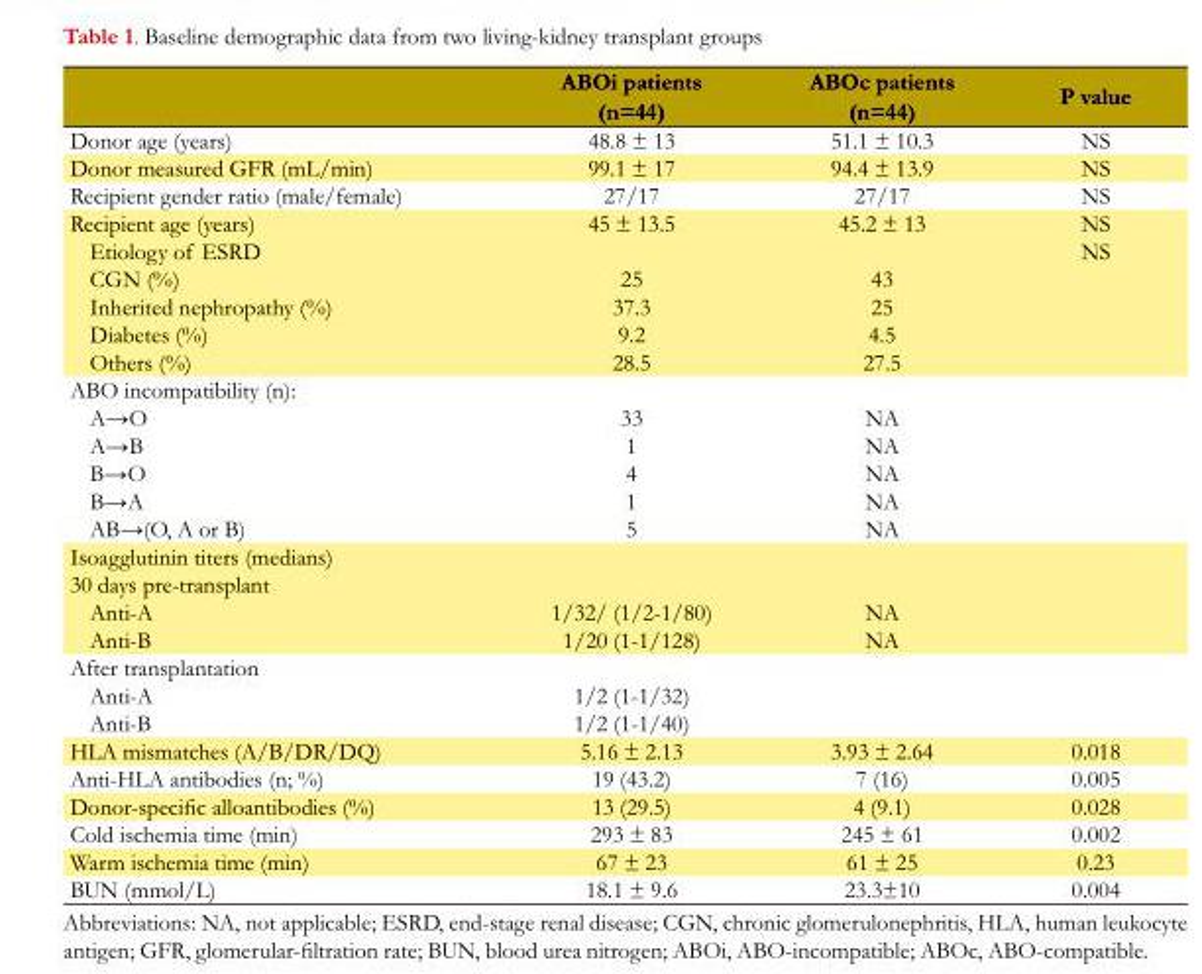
<table><thead><tr><td></td><td>ABOi patients (n=44)</td><td>ABOc patients (n=44)</td><td>P value</td></tr></thead><tbody><tr><td>Donor age (years)</td><td>48.8 ± 13</td><td>51.1 ± 10.3</td><td>NS</td></tr><tr><td>Donor measured GFR (mL/min)</td><td>99.1 ± 17</td><td>94.4 ± 13.9</td><td>NS</td></tr><tr><td>Recipient gender ratio (male/female)</td><td>27/17</td><td>27/17</td><td>NS</td></tr><tr><td>Recipient age (years)</td><td>45 ± 13.5</td><td>45.2 ± 13</td><td>NS</td></tr><tr><td>Etiology of ESRD</td><td></td><td></td><td>NS</td></tr><tr><td>CGN (%)</td><td>25</td><td>43</td><td></td></tr><tr><td>Inherited nephropathy (%)</td><td>37.3</td><td>25</td><td></td></tr><tr><td>Diabetes (%)</td><td>9.2</td><td>4.5</td><td></td></tr><tr><td>Others (%)</td><td>28.5</td><td>27.5</td><td></td></tr><tr><td colspan="4">ABO incompatibility (n):</td></tr><tr><td>A→O</td><td>33</td><td>NA</td><td></td></tr><tr><td>A→B</td><td>1</td><td>NA</td><td></td></tr><tr><td>B→O</td><td>4</td><td>NA</td><td></td></tr><tr><td>B→A</td><td>1</td><td>NA</td><td></td></tr><tr><td>AB→(O, A or B)</td><td>5</td><td>NA</td><td></td></tr><tr><td colspan="4">Isoagglutinin titers (medians)</td></tr><tr><td colspan="4">30 days pre-transplant</td></tr><tr><td>Anti-A</td><td>1/32/ (1/2-1/80)</td><td>NA</td><td></td></tr><tr><td>Anti-B</td><td>1/20 (1-1/128)</td><td>NA</td><td></td></tr><tr><td colspan="4">After transplantation</td></tr><tr><td>Anti-A</td><td>1/2 (1-1/32)</td><td></td><td></td></tr><tr><td>Anti-B</td><td>1/2 (1-1/40)</td><td></td><td></td></tr><tr><td>HLA mismatches (A/B/DR/DQ)</td><td>5.16 ± 2.13</td><td>3.93 ± 2.64</td><td>0.018</td></tr><tr><td>Anti-HLA antibodies (n; %)</td><td>19 (43.2)</td><td>7 (16)</td><td>0.005</td></tr><tr><td>Donor-specific alloantibodies (%)</td><td>13 (29.5)</td><td>4 (9.1)</td><td>0.028</td></tr><tr><td>Cold ischemia time (min)</td><td>293 ± 83</td><td>245 ± 61</td><td>0.002</td></tr><tr><td>Warm ischemia time (min)</td><td>67 ± 23</td><td>61 ± 25</td><td>0.23</td></tr><tr><td>BUN (mmol/L)</td><td>18.1 ± 9.6</td><td>23.3±10</td><td>0.004</td></tr></tbody></table>